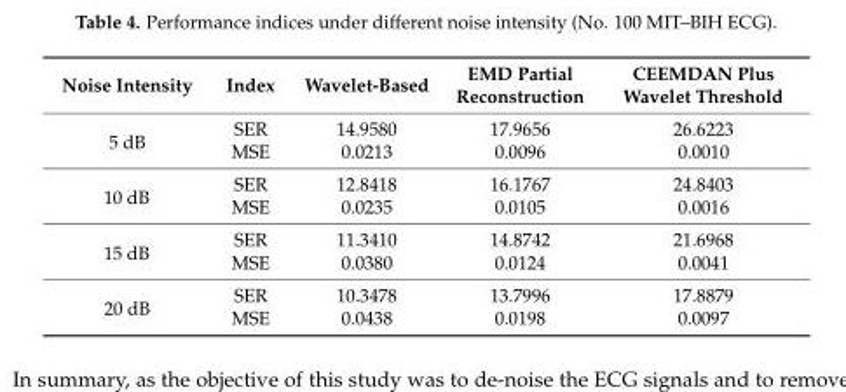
<table><thead><tr><td>Noise Intensity</td><td>Index</td><td>Wavelet-Based</td><td>EMD Partial Reconstruction</td><td>CEEMDAN Plus Wavelet Threshold</td></tr></thead><tbody><tr><td rowspan="2">5 dB</td><td>SER</td><td>14.9580</td><td>17.9656</td><td>26.6223</td></tr><tr><td>MSE</td><td>0.0213</td><td>0.0096</td><td>0.0010</td></tr><tr><td rowspan="2">10 dB</td><td>SER</td><td>12.8418</td><td>16.1767</td><td>24.8403</td></tr><tr><td>MSE</td><td>0.0235</td><td>0.0105</td><td>0.0016</td></tr><tr><td rowspan="2">15 dB</td><td>SER</td><td>11.3410</td><td>14.8742</td><td>21.6968</td></tr><tr><td>MSE</td><td>0.0380</td><td>0.0124</td><td>0.0041</td></tr><tr><td rowspan="2">20 dB</td><td>SER</td><td>10.3478</td><td>13.7996</td><td>17.8879</td></tr><tr><td>MSE</td><td>0.0438</td><td>0.0198</td><td>0.0097</td></tr></tbody></table>